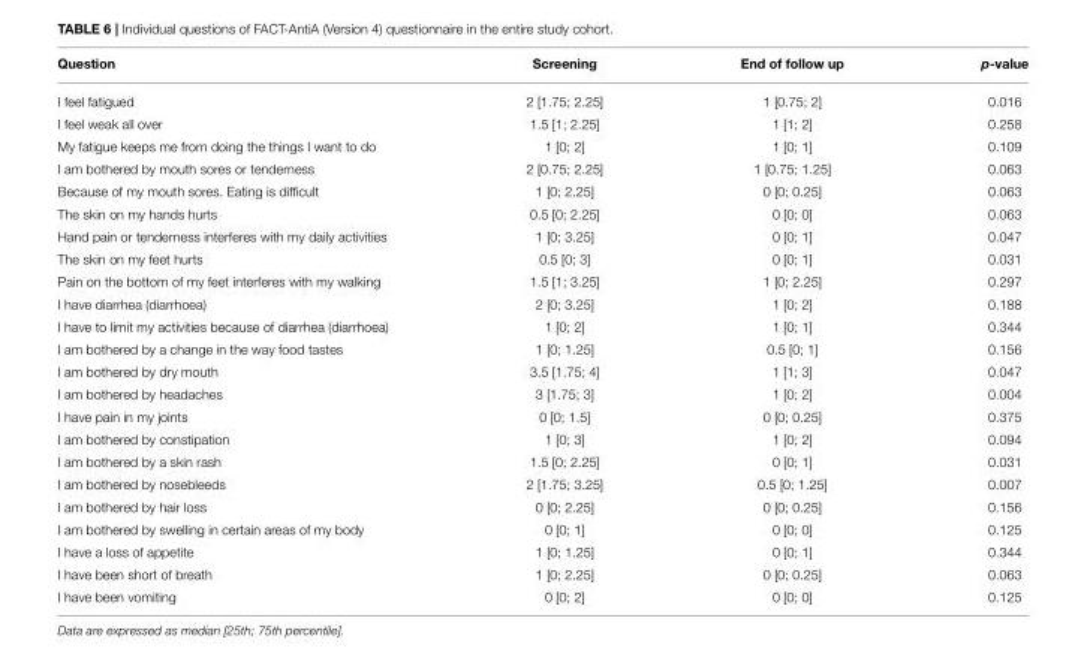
<table><thead><tr><td>Question</td><td>Screening</td><td>End of follow up</td><td>p-value</td></tr></thead><tbody><tr><td>I feel fatigued</td><td>2 [1.75; 2.25]</td><td>1 [0.75; 2]</td><td>0.016</td></tr><tr><td>I feel weak all over</td><td>1.5 [1; 2.25]</td><td>1 [1; 2]</td><td>0.258</td></tr><tr><td>My fatigue keeps me from doing the things I want to do</td><td>1 [0; 2]</td><td>1 [0; 1]</td><td>0.109</td></tr><tr><td>I am bothered by mouth sores or tenderness</td><td>2 [0.75; 2.25]</td><td>1 [0.75; 1.25]</td><td>0.063</td></tr><tr><td>Because of my mouth sores. Eating is difficult</td><td>1 [0; 2.25]</td><td>0 [0; 0.25]</td><td>0.063</td></tr><tr><td>The skin on my hands hurts</td><td>0.5 [0; 2.25]</td><td>0 [0; 0]</td><td>0.063</td></tr><tr><td>Hand pain or tenderness interferes with my daily activities</td><td>1 [0; 3.25]</td><td>0 [0; 1]</td><td>0.047</td></tr><tr><td>The skin on my feet hurts</td><td>0.5 [0; 3]</td><td>0 [0; 1]</td><td>0.031</td></tr><tr><td>Pain on the bottom of my feet interferes with my walking</td><td>1.5 [1; 3.25]</td><td>1 [0; 2.25]</td><td>0.297</td></tr><tr><td>I have diarrhea (diarrhoea)</td><td>2 [0; 3.25]</td><td>1 [0; 2]</td><td>0.188</td></tr><tr><td>I have to limit my activities because of diarrhea (diarrhoea)</td><td>1 [0; 2]</td><td>1 [0; 1]</td><td>0.344</td></tr><tr><td>I am bothered by a change in the way food tastes</td><td>1 [0; 1.25]</td><td>0.5 [0; 1]</td><td>0.156</td></tr><tr><td>I am bothered by dry mouth</td><td>3.5 [1.75; 4]</td><td>1 [1; 3]</td><td>0.047</td></tr><tr><td>I am bothered by headaches</td><td>3 [1.75; 3]</td><td>1 [0; 2]</td><td>0.004</td></tr><tr><td>I have pain in my joints</td><td>0 [0; 1.5]</td><td>0 [0; 0.25]</td><td>0.375</td></tr><tr><td>I am bothered by constipation</td><td>1 [0; 3]</td><td>1 [0; 2]</td><td>0.094</td></tr><tr><td>I am bothered by a skin rash</td><td>1.5 [0; 2.25]</td><td>0 [0; 1]</td><td>0.031</td></tr><tr><td>I am bothered by nosebleeds</td><td>2 [1.75; 3.25]</td><td>0.5 [0; 1.25]</td><td>0.007</td></tr><tr><td>I am bothered by hair loss</td><td>0 [0; 2.25]</td><td>0 [0; 0.25]</td><td>0.156</td></tr><tr><td>I am bothered by swelling in certain areas of my body</td><td>0 [0; 1]</td><td>0 [0; 0]</td><td>0.125</td></tr><tr><td>I have a loss of appetite</td><td>1 [0; 1.25]</td><td>0 [0; 1]</td><td>0.344</td></tr><tr><td>I have been short of breath</td><td>1 [0; 2.25]</td><td>0 [0; 0.25]</td><td>0.063</td></tr><tr><td>I have been vomiting</td><td>0 [0; 2]</td><td>0 [0; 0]</td><td>0.125</td></tr></tbody></table>